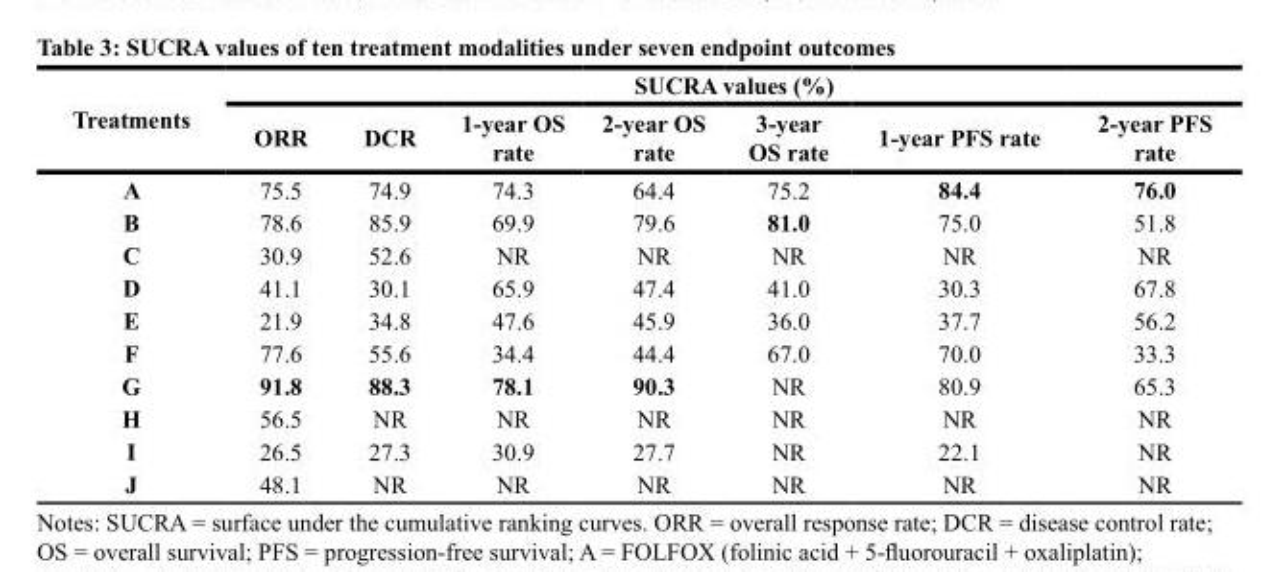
<table><thead><tr><td rowspan="2">Treatments</td><td colspan="7">SUCRA values (%)</td></tr><tr><td>ORR</td><td>DCR</td><td>1-year OS rate</td><td>2-year OS rate</td><td>3-year OS rate</td><td>1-year PFS rate</td><td>2-year PFS rate</td></tr></thead><tbody><tr><td>A</td><td>75.5</td><td>74.9</td><td>74.3</td><td>64.4</td><td>75.2</td><td>84.4</td><td>76.0</td></tr><tr><td>B</td><td>78.6</td><td>85.9</td><td>69.9</td><td>79.6</td><td>81.0</td><td>75.0</td><td>51.8</td></tr><tr><td>C</td><td>30.9</td><td>52.6</td><td>NR</td><td>NR</td><td>NR</td><td>NR</td><td>NR</td></tr><tr><td>D</td><td>41.1</td><td>30.1</td><td>65.9</td><td>47.4</td><td>41.0</td><td>30.3</td><td>67.8</td></tr><tr><td>E</td><td>21.9</td><td>34.8</td><td>47.6</td><td>45.9</td><td>36.0</td><td>37.7</td><td>56.2</td></tr><tr><td>F</td><td>77.6</td><td>55.6</td><td>34.4</td><td>44.4</td><td>67.0</td><td>70.0</td><td>33.3</td></tr><tr><td>G</td><td>91.8</td><td>88.3</td><td>78.1</td><td>90.3</td><td>NR</td><td>80.9</td><td>65.3</td></tr><tr><td>H</td><td>56.5</td><td>NR</td><td>NR</td><td>NR</td><td>NR</td><td>NR</td><td>NR</td></tr><tr><td>I</td><td>26.5</td><td>27.3</td><td>30.9</td><td>27.7</td><td>NR</td><td>22.1</td><td>NR</td></tr><tr><td>J</td><td>48.1</td><td>NR</td><td>NR</td><td>NR</td><td>NR</td><td>NR</td><td>NR</td></tr></tbody></table>